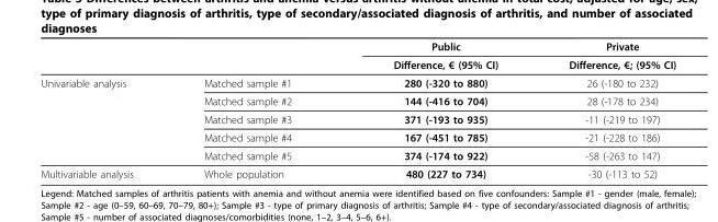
<table><thead><tr><td rowspan="2"></td><td rowspan="2"></td><td rowspan="2">Public Difference, € (95% CI)</td><td rowspan="2">Private Difference, €; (95% CI)</td></tr><tr></tr></thead><tbody><tr><td rowspan="5">Univariable analysis</td><td>Matched sample #1</td><td>280 (-320 to 880)</td><td>26 (-180 to 232)</td></tr><tr><td>Matched sample #2</td><td>144 (-416 to 704)</td><td>28 (-178 to 234)</td></tr><tr><td>Matched sample #3</td><td>371 (-193 to 935)</td><td>-11 (-219 to 197)</td></tr><tr><td>Matched sample #4</td><td>167 (-451 to 785)</td><td>-21 (-228 to 186)</td></tr><tr><td>Matched sample #5</td><td>374 (-174 to 922)</td><td>-58 (-263 to 147)</td></tr><tr><td>Multivariable analysis</td><td>Whole population</td><td>480 (227 to 734)</td><td>-30 (-113 to 52)</td></tr></tbody></table>